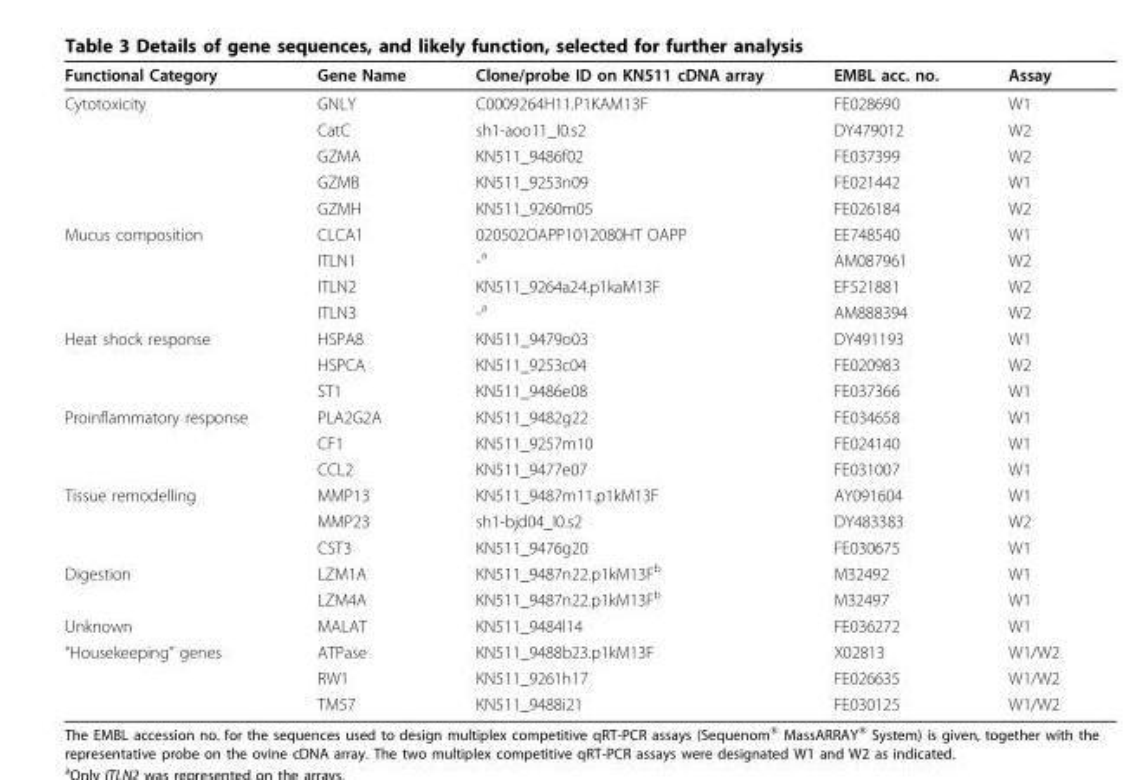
<table><thead><tr><td>Functional Category</td><td>Gene Name</td><td>Clone/probe ID on KN511 cDNA array</td><td>EMBL acc. no.</td><td>Assay</td></tr></thead><tbody><tr><td rowspan="5">Cytotoxicity</td><td>GNLY</td><td>C0009264H11.P1KAM13F</td><td>FE028690</td><td>W1</td></tr><tr><td>CatC</td><td>sh1-aoo11_l0.s2</td><td>DY479012</td><td>W2</td></tr><tr><td>GZMA</td><td>KN511_9486f02</td><td>FE037399</td><td>W2</td></tr><tr><td>GZMB</td><td>KN511_9253n09</td><td>FE021442</td><td>W1</td></tr><tr><td>GZMH</td><td>KN511_9260m05</td><td>FE026184</td><td>W2</td></tr><tr><td rowspan="4">Mucus composition</td><td>CLCA1</td><td>020502OAPP1012080HT OAPP</td><td>EE748540</td><td>W1</td></tr><tr><td>ITLN1</td><td>-<sup>a</sup></td><td>AM087961</td><td>W2</td></tr><tr><td>ITLN2</td><td>KN511_9264a24.p1kaM13F</td><td>EF521881</td><td>W2</td></tr><tr><td>ITLN3</td><td>-<sup>a</sup></td><td>AM888394</td><td>W2</td></tr><tr><td rowspan="3">Heat shock response</td><td>HSPA8</td><td>KN511_9479o03</td><td>DY491193</td><td>W1</td></tr><tr><td>HSPCA</td><td>KN511_9253c04</td><td>FE020983</td><td>W2</td></tr><tr><td>ST1</td><td>KN511_9486e08</td><td>FE037366</td><td>W1</td></tr><tr><td rowspan="3">Proinflammatory response</td><td>PLA2G2A</td><td>KN511_9482g22</td><td>FE034658</td><td>W1</td></tr><tr><td>CF1</td><td>KN511_9257m10</td><td>FE024140</td><td>W1</td></tr><tr><td>CCL2</td><td>KN511_9477e07</td><td>FE031007</td><td>W1</td></tr><tr><td rowspan="3">Tissue remodelling</td><td>MMP13</td><td>KN511_9487m11.p1kM13F</td><td>AY091604</td><td>W1</td></tr><tr><td>MMP23</td><td>sh1-bjd04_l0.s2</td><td>DY483383</td><td>W2</td></tr><tr><td>CST3</td><td>KN511_9476g20</td><td>FE030675</td><td>W1</td></tr><tr><td rowspan="2">Digestion</td><td>LZM1A</td><td>KN511_9487n22.p1kM13F<sup>b</sup></td><td>M32492</td><td>W1</td></tr><tr><td>LZM4A</td><td>KN511_9487n22.p1kM13F<sup>b</sup></td><td>M32497</td><td>W1</td></tr><tr><td>Unknown</td><td>MALAT</td><td>KN511_9484l14</td><td>FE036272</td><td>W1</td></tr><tr><td rowspan="3">“Housekeeping” genes</td><td>ATPase</td><td>KN511_9488b23.p1kM13F</td><td>X02813</td><td>W1/W2</td></tr><tr><td>RW1</td><td>KN511_9261h17</td><td>FE026635</td><td>W1/W2</td></tr><tr><td>TM57</td><td>KN511_9488i21</td><td>FE030125</td><td>W1/W2</td></tr></tbody></table>